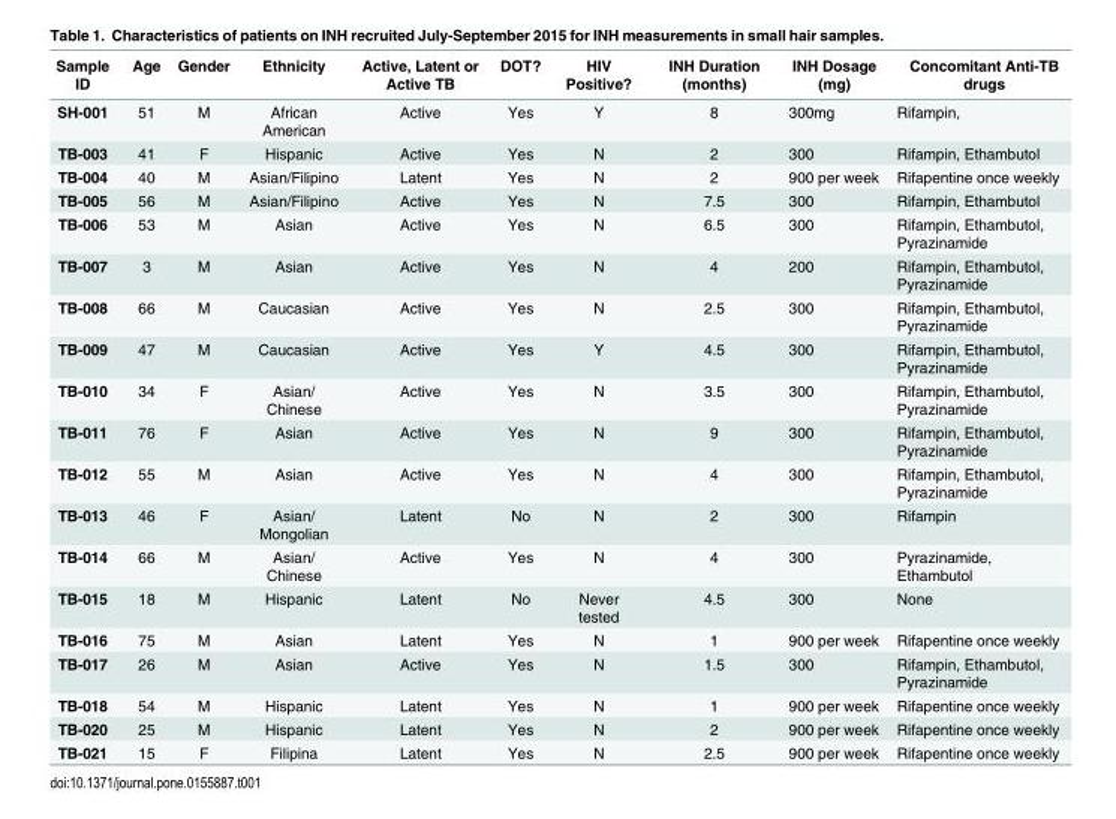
<table><thead><tr><td>Sample ID</td><td>Age</td><td>Gender</td><td>Ethnicity</td><td>Active, Latent or Active TB</td><td>DOT?</td><td>HIV Positive?</td><td>INH Duration (months)</td><td>INH Dosage (mg)</td><td>Concomitant Anti-TB drugs</td></tr></thead><tbody><tr><td>SH-001</td><td>51</td><td>M</td><td>African American</td><td>Active</td><td>Yes</td><td>Y</td><td>8</td><td>300mg</td><td>Rifampin,</td></tr><tr><td>TB-003</td><td>41</td><td>F</td><td>Hispanic</td><td>Active</td><td>Yes</td><td>N</td><td>2</td><td>300</td><td>Rifampin, Ethambutol</td></tr><tr><td>TB-004</td><td>40</td><td>M</td><td>Asian/Filipino</td><td>Latent</td><td>Yes</td><td>N</td><td>2</td><td>900 per week</td><td>Rifapentine once weekly</td></tr><tr><td>TB-005</td><td>56</td><td>M</td><td>Asian/Filipino</td><td>Active</td><td>Yes</td><td>N</td><td>7.5</td><td>300</td><td>Rifampin, Ethambutol</td></tr><tr><td>TB-006</td><td>53</td><td>M</td><td>Asian</td><td>Active</td><td>Yes</td><td>N</td><td>6.5</td><td>300</td><td>Rifampin, Ethambutol, Pyrazinamide</td></tr><tr><td>TB-007</td><td>3</td><td>M</td><td>Asian</td><td>Active</td><td>Yes</td><td>N</td><td>4</td><td>200</td><td>Rifampin, Ethambutol, Pyrazinamide</td></tr><tr><td>TB-008</td><td>66</td><td>M</td><td>Caucasian</td><td>Active</td><td>Yes</td><td>N</td><td>2.5</td><td>300</td><td>Rifampin, Ethambutol, Pyrazinamide</td></tr><tr><td>TB-009</td><td>47</td><td>M</td><td>Caucasian</td><td>Active</td><td>Yes</td><td>Y</td><td>4.5</td><td>300</td><td>Rifampin, Ethambutol, Pyrazinamide</td></tr><tr><td>TB-010</td><td>34</td><td>F</td><td>Asian/ Chinese</td><td>Active</td><td>Yes</td><td>N</td><td>3.5</td><td>300</td><td>Rifampin, Ethambutol, Pyrazinamide</td></tr><tr><td>TB-011</td><td>76</td><td>F</td><td>Asian</td><td>Active</td><td>Yes</td><td>N</td><td>9</td><td>300</td><td>Rifampin, Ethambutol, Pyrazinamide</td></tr><tr><td>TB-012</td><td>55</td><td>M</td><td>Asian</td><td>Active</td><td>Yes</td><td>N</td><td>4</td><td>300</td><td>Rifampin, Ethambutol, Pyrazinamide</td></tr><tr><td>TB-013</td><td>46</td><td>F</td><td>Asian/ Mongolian</td><td>Latent</td><td>No</td><td>N</td><td>2</td><td>300</td><td>Rifampin</td></tr><tr><td>TB-014</td><td>66</td><td>M</td><td>Asian/ Chinese</td><td>Active</td><td>Yes</td><td>N</td><td>4</td><td>300</td><td>Pyrazinamide, Ethambutol</td></tr><tr><td>TB-015</td><td>18</td><td>M</td><td>Hispanic</td><td>Latent</td><td>No</td><td>Never tested</td><td>4.5</td><td>300</td><td>None</td></tr><tr><td>TB-016</td><td>75</td><td>M</td><td>Asian</td><td>Latent</td><td>Yes</td><td>N</td><td>1</td><td>900 per week</td><td>Rifapentine once weekly</td></tr><tr><td>TB-017</td><td>26</td><td>M</td><td>Asian</td><td>Active</td><td>Yes</td><td>N</td><td>1.5</td><td>300</td><td>Rifampin, Ethambutol, Pyrazinamide</td></tr><tr><td>TB-018</td><td>54</td><td>M</td><td>Hispanic</td><td>Latent</td><td>Yes</td><td>N</td><td>1</td><td>900 per week</td><td>Rifapentine once weekly</td></tr><tr><td>TB-020</td><td>25</td><td>M</td><td>Hispanic</td><td>Latent</td><td>Yes</td><td>N</td><td>2</td><td>900 per week</td><td>Rifapentine once weekly</td></tr><tr><td>TB-021</td><td>15</td><td>F</td><td>Filipina</td><td>Latent</td><td>Yes</td><td>N</td><td>2.5</td><td>900 per week</td><td>Rifapentine once weekly</td></tr></tbody></table>